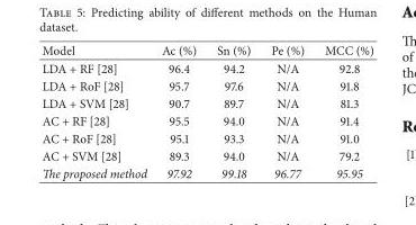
<table><thead><tr><td>Model</td><td>Ac (%)</td><td>Sn (%)</td><td>Pe (%)</td><td>MCC (%)</td></tr></thead><tbody><tr><td>LDA + RF [28]</td><td>96.4</td><td>94.2</td><td>N/A</td><td>92.8</td></tr><tr><td>LDA + RoF [28]</td><td>95.7</td><td>97.6</td><td>N/A</td><td>91.8</td></tr><tr><td>LDA + SVM [28]</td><td>90.7</td><td>89.7</td><td>N/A</td><td>81.3</td></tr><tr><td>AC + RF [28]</td><td>95.5</td><td>94.0</td><td>N/A</td><td>91.4</td></tr><tr><td>AC + RoF [28]</td><td>95.1</td><td>93.3</td><td>N/A</td><td>91.0</td></tr><tr><td>AC + SVM [28]</td><td>89.3</td><td>94.0</td><td>N/A</td><td>79.2</td></tr><tr><td>The proposed method</td><td>97.92</td><td>99.18</td><td>96.77</td><td>95.95</td></tr></tbody></table>